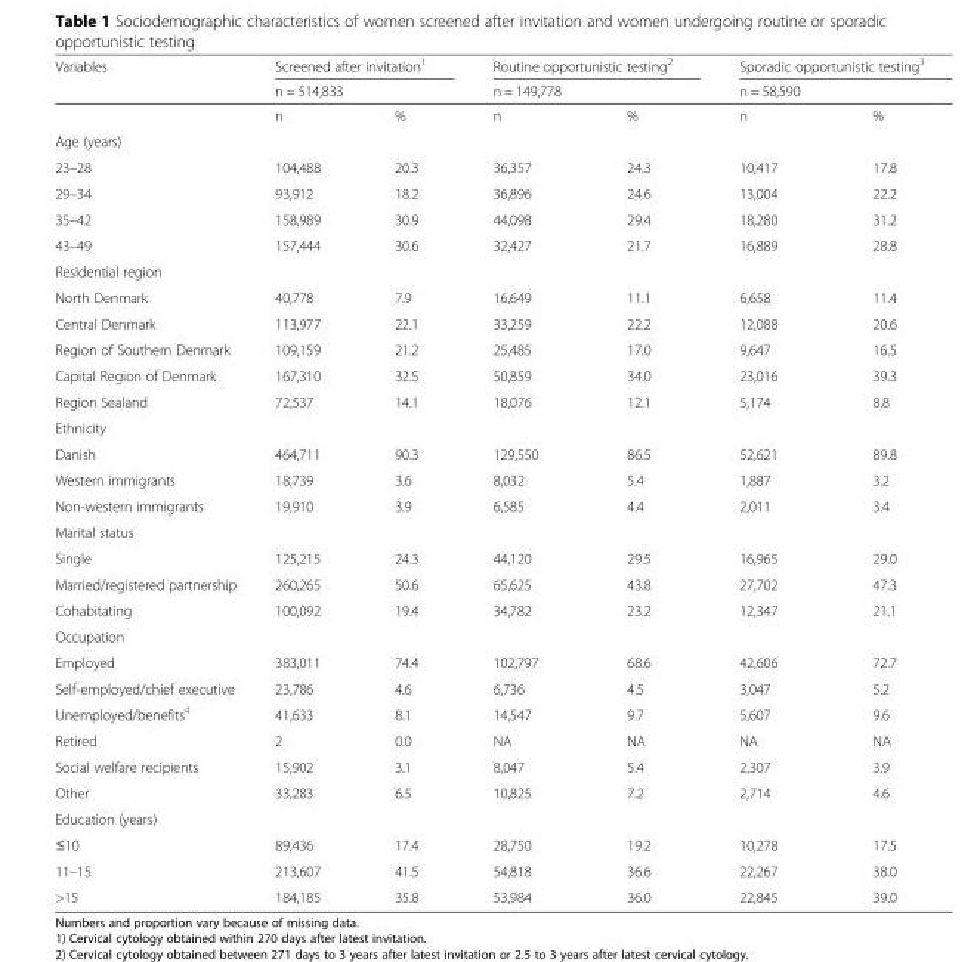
<table><thead><tr><td rowspan="3">Variables</td><td rowspan="2" colspan="2">Screened after invitation<sup>1</sup> n = 514,833</td><td rowspan="2" colspan="2">Routine opportunistic testing<sup>2</sup> n = 149,778</td><td rowspan="2" colspan="2">Sporadic opportunistic testing<sup>3</sup> n = 58,590</td></tr><tr></tr><tr><td>n</td><td>%</td><td>n</td><td>%</td><td>n</td><td>%</td></tr></thead><tbody><tr><td colspan="7">Age (years)</td></tr><tr><td>23–28</td><td>104,488</td><td>20.3</td><td>36,357</td><td>24.3</td><td>10,417</td><td>17.8</td></tr><tr><td>29–34</td><td>93,912</td><td>18.2</td><td>36,896</td><td>24.6</td><td>13,004</td><td>22.2</td></tr><tr><td>35–42</td><td>158,989</td><td>30.9</td><td>44,098</td><td>29.4</td><td>18,280</td><td>31.2</td></tr><tr><td>43–49</td><td>157,444</td><td>30.6</td><td>32,427</td><td>21.7</td><td>16,889</td><td>28.8</td></tr><tr><td colspan="7">Residential region</td></tr><tr><td>North Denmark</td><td>40,778</td><td>7.9</td><td>16,649</td><td>11.1</td><td>6,658</td><td>11.4</td></tr><tr><td>Central Denmark</td><td>113,977</td><td>22.1</td><td>33,259</td><td>22.2</td><td>12,088</td><td>20.6</td></tr><tr><td>Region of Southern Denmark</td><td>109,159</td><td>21.2</td><td>25,485</td><td>17.0</td><td>9,647</td><td>16.5</td></tr><tr><td>Capital Region of Denmark</td><td>167,310</td><td>32.5</td><td>50,859</td><td>34.0</td><td>23,016</td><td>39.3</td></tr><tr><td>Region Sealand</td><td>72,537</td><td>14.1</td><td>18,076</td><td>12.1</td><td>5,174</td><td>8.8</td></tr><tr><td colspan="7">Ethnicity</td></tr><tr><td>Danish</td><td>464,711</td><td>90.3</td><td>129,550</td><td>86.5</td><td>52,621</td><td>89.8</td></tr><tr><td>Western immigrants</td><td>18,739</td><td>3.6</td><td>8,032</td><td>5.4</td><td>1,887</td><td>3.2</td></tr><tr><td>Non-western immigrants</td><td>19,910</td><td>3.9</td><td>6,585</td><td>4.4</td><td>2,011</td><td>3.4</td></tr><tr><td colspan="7">Marital status</td></tr><tr><td>Single</td><td>125,215</td><td>24.3</td><td>44,120</td><td>29.5</td><td>16,965</td><td>29.0</td></tr><tr><td>Married/registered partnership</td><td>260,265</td><td>50.6</td><td>65,625</td><td>43.8</td><td>27,702</td><td>47.3</td></tr><tr><td>Cohabitating</td><td>100,092</td><td>19.4</td><td>34,782</td><td>23.2</td><td>12,347</td><td>21.1</td></tr><tr><td colspan="7">Occupation</td></tr><tr><td>Employed</td><td>383,011</td><td>74.4</td><td>102,797</td><td>68.6</td><td>42,606</td><td>72.7</td></tr><tr><td>Self-employed/chief executive</td><td>23,786</td><td>4.6</td><td>6,736</td><td>4.5</td><td>3,047</td><td>5.2</td></tr><tr><td>Unemployed/benefits<sup>4</sup></td><td>41,633</td><td>8.1</td><td>14,547</td><td>9.7</td><td>5,607</td><td>9.6</td></tr><tr><td>Retired</td><td>2</td><td>0.0</td><td>NA</td><td>NA</td><td>NA</td><td>NA</td></tr><tr><td>Social welfare recipients</td><td>15,902</td><td>3.1</td><td>8,047</td><td>5.4</td><td>2,307</td><td>3.9</td></tr><tr><td>Other</td><td>33,283</td><td>6.5</td><td>10,825</td><td>7.2</td><td>2,714</td><td>4.6</td></tr><tr><td colspan="7">Education (years)</td></tr><tr><td>≤10</td><td>89,436</td><td>17.4</td><td>28,750</td><td>19.2</td><td>10,278</td><td>17.5</td></tr><tr><td>11–15</td><td>213,607</td><td>41.5</td><td>54,818</td><td>36.6</td><td>22,267</td><td>38.0</td></tr><tr><td>&gt;15</td><td>184,185</td><td>35.8</td><td>53,984</td><td>36.0</td><td>22,845</td><td>39.0</td></tr></tbody></table>